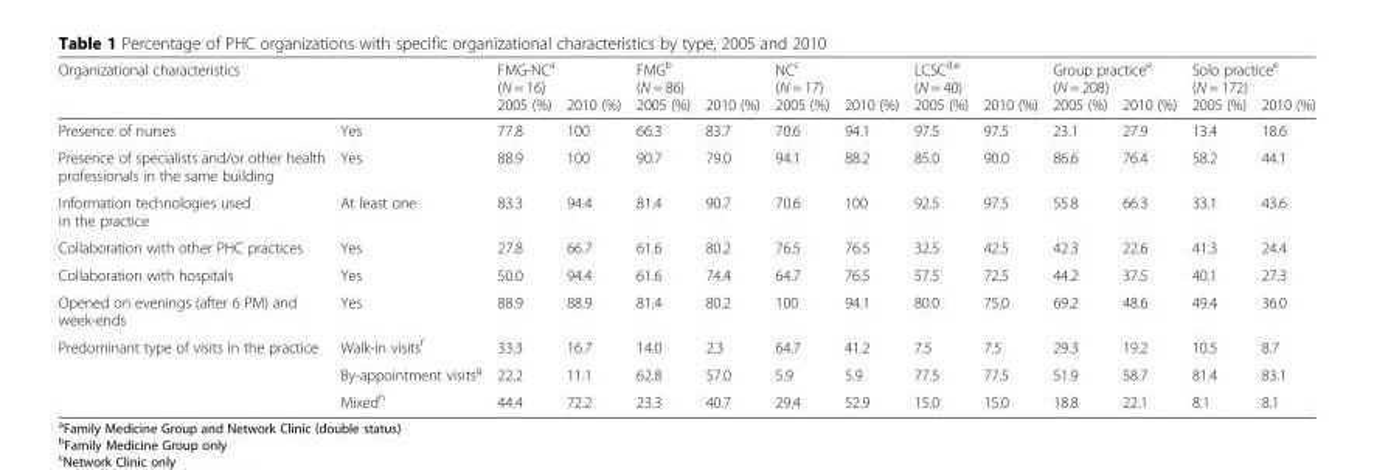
<table><thead><tr><td rowspan="2">Organizational characteristics</td><td rowspan="2"></td><td colspan="2">FMG-NC<sup>a</sup> (N = 16)</td><td colspan="2">FMG<sup>b</sup> (N = 86)</td><td colspan="2">NC<sup>c</sup> (N = 17)</td><td colspan="2">LCSC<sup>d,e</sup> (N = 40)</td><td colspan="2">Group practice<sup>e</sup> (N = 208)</td><td colspan="2">Solo practice<sup>e</sup> (N = 172)</td></tr><tr><td>2005 (%)</td><td>2010 (%)</td><td>2005 (%)</td><td>2010 (%)</td><td>2005 (%)</td><td>2010 (%)</td><td>2005 (%)</td><td>2010 (%)</td><td>2005 (%)</td><td>2010 (%)</td><td>2005 (%)</td><td>2010 (%)</td></tr></thead><tbody><tr><td>Presence of nurses</td><td>Yes</td><td>77.8</td><td>100</td><td>66.3</td><td>83.7</td><td>70.6</td><td>94.1</td><td>97.5</td><td>97.5</td><td>23.1</td><td>27.9</td><td>13.4</td><td>18.6</td></tr><tr><td>Presence of specialists and/or other health professionals in the same building</td><td>Yes</td><td>88.9</td><td>100</td><td>90.7</td><td>79.0</td><td>94.1</td><td>88.2</td><td>85.0</td><td>90.0</td><td>86.6</td><td>76.4</td><td>58.2</td><td>44.1</td></tr><tr><td>Information technologies used in the practice</td><td>At least one</td><td>83.3</td><td>94.4</td><td>81.4</td><td>90.7</td><td>70.6</td><td>100</td><td>92.5</td><td>97.5</td><td>55.8</td><td>66.3</td><td>33.1</td><td>43.6</td></tr><tr><td>Collaboration with other PHC practices</td><td>Yes</td><td>27.8</td><td>66.7</td><td>61.6</td><td>80.2</td><td>76.5</td><td>76.5</td><td>32.5</td><td>42.5</td><td>42.3</td><td>22.6</td><td>41.3</td><td>24.4</td></tr><tr><td>Collaboration with hospitals</td><td>Yes</td><td>50.0</td><td>94.4</td><td>61.6</td><td>74.4</td><td>64.7</td><td>76.5</td><td>57.5</td><td>72.5</td><td>44.2</td><td>37.5</td><td>40.1</td><td>27.3</td></tr><tr><td>Opened on evenings (after 6 PM) and week-ends</td><td>Yes</td><td>88.9</td><td>88.9</td><td>81.4</td><td>80.2</td><td>100</td><td>94.1</td><td>80.0</td><td>75.0</td><td>69.2</td><td>48.6</td><td>49.4</td><td>36.0</td></tr><tr><td rowspan="3">Predominant type of visits in the practice</td><td>Walk-in visits<sup>f</sup></td><td>33.3</td><td>16.7</td><td>14.0</td><td>2.3</td><td>64.7</td><td>41.2</td><td>7.5</td><td>7.5</td><td>29.3</td><td>19.2</td><td>10.5</td><td>8.7</td></tr><tr><td>By-appointment visits<sup>g</sup></td><td>22.2</td><td>11.1</td><td>62.8</td><td>57.0</td><td>5.9</td><td>5.9</td><td>77.5</td><td>77.5</td><td>51.9</td><td>58.7</td><td>81.4</td><td>83.1</td></tr><tr><td>Mixed<sup>h</sup></td><td>44.4</td><td>72.2</td><td>23.3</td><td>40.7</td><td>29.4</td><td>52.9</td><td>15.0</td><td>15.0</td><td>18.8</td><td>22.1</td><td>8.1</td><td>8.1</td></tr></tbody></table>